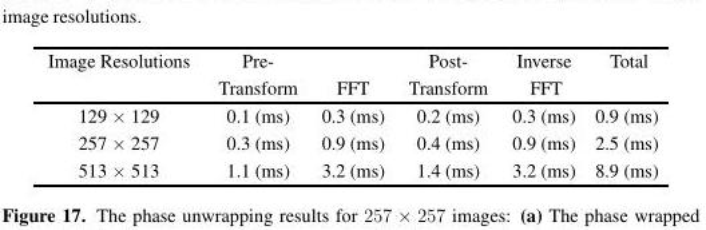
<table><thead><tr><td>Image Resolutions</td><td>Pre- Transform</td><td>FFT</td><td>Post- Transform</td><td>Inverse FFT</td><td>Total</td></tr></thead><tbody><tr><td>129 × 129</td><td>0.1 (ms)</td><td>0.3 (ms)</td><td>0.2 (ms)</td><td>0.3 (ms)</td><td>0.9 (ms)</td></tr><tr><td>257 × 257</td><td>0.3 (ms)</td><td>0.9 (ms)</td><td>0.4 (ms)</td><td>0.9 (ms)</td><td>2.5 (ms)</td></tr><tr><td>513 × 513</td><td>1.1 (ms)</td><td>3.2 (ms)</td><td>1.4 (ms)</td><td>3.2 (ms)</td><td>8.9 (ms)</td></tr></tbody></table>